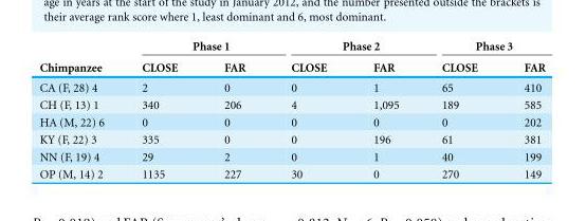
<table><thead><tr><td rowspan="2">Chimpanzee</td><td colspan="2">Phase 1</td><td colspan="2">Phase 2</td><td colspan="2">Phase 3</td></tr><tr><td>CLOSE</td><td>FAR</td><td>CLOSE</td><td>FAR</td><td>CLOSE</td><td>FAR</td></tr></thead><tbody><tr><td>CA (F, 28) 4</td><td>2</td><td>0</td><td>0</td><td>1</td><td>65</td><td>410</td></tr><tr><td>CH (F, 13) 1</td><td>340</td><td>206</td><td>4</td><td>1,095</td><td>189</td><td>585</td></tr><tr><td>HA (M, 22) 6</td><td>0</td><td>0</td><td>0</td><td>0</td><td>0</td><td>202</td></tr><tr><td>KY (F, 22) 3</td><td>335</td><td>0</td><td>0</td><td>196</td><td>61</td><td>381</td></tr><tr><td>NN (F, 19) 4</td><td>29</td><td>2</td><td>0</td><td>1</td><td>40</td><td>199</td></tr><tr><td>OP (M, 14) 2</td><td>1135</td><td>227</td><td>30</td><td>0</td><td>270</td><td>149</td></tr></tbody></table>